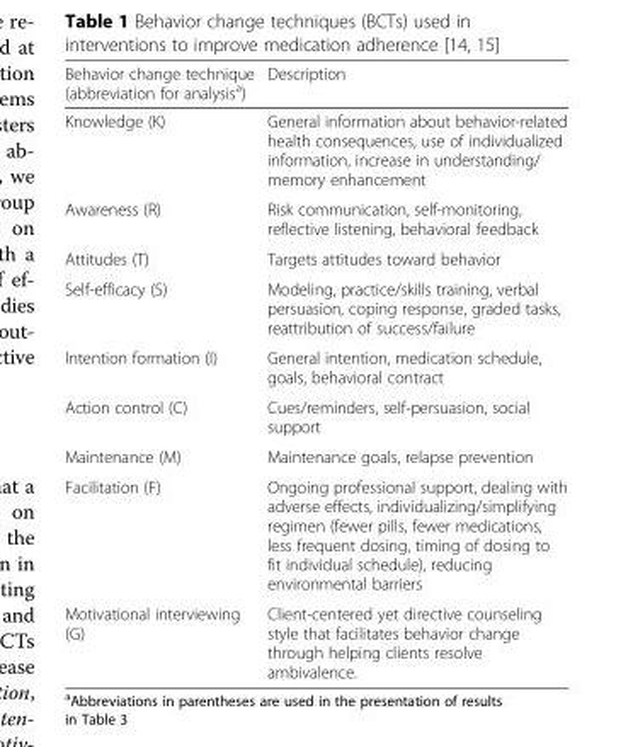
<table><thead><tr><td>Behavior change technique (abbreviation for analysis<sup>a</sup>)</td><td>Description</td></tr></thead><tbody><tr><td>Knowledge (K)</td><td>General information about behavior-related health consequences, use of individualized information, increase in understanding/ memory enhancement</td></tr><tr><td>Awareness (R)</td><td>Risk communication, self-monitoring, reflective listening, behavioral feedback</td></tr><tr><td>Attitudes (T)</td><td>Targets attitudes toward behavior</td></tr><tr><td>Self-efficacy (S)</td><td>Modeling, practice/skills training, verbal persuasion, coping response, graded tasks, reattribution of success/failure</td></tr><tr><td>Intention formation (I)</td><td>General intention, medication schedule, goals, behavioral contract</td></tr><tr><td>Action control (C)</td><td>Cues/reminders, self-persuasion, social support</td></tr><tr><td>Maintenance (M)</td><td>Maintenance goals, relapse prevention</td></tr><tr><td>Facilitation (F)</td><td>Ongoing professional support, dealing with adverse effects, individualizing/simplifying regimen (fewer pills, fewer medications, less frequent dosing, timing of dosing to fit individual schedule), reducing environmental barriers</td></tr><tr><td>Motivational interviewing (G)</td><td>Client-centered yet directive counseling style that facilitates behavior change through helping clients resolve ambivalence.</td></tr></tbody></table>